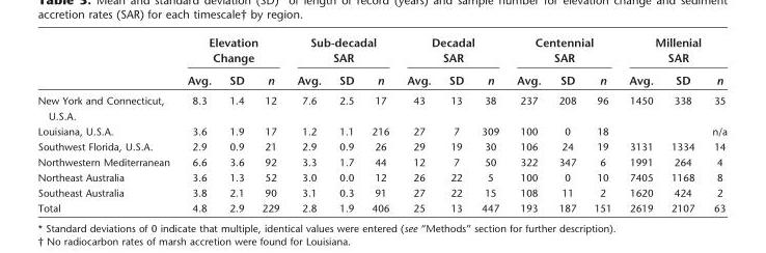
<table><thead><tr><td rowspan="2"></td><td colspan="3">Elevation Change</td><td colspan="3">Sub-decadal SAR</td><td colspan="3">Decadal SAR</td><td colspan="3">Centennial SAR</td><td colspan="3">Millenial SAR</td></tr><tr><td>Avg.</td><td>SD</td><td>n</td><td>Avg.</td><td>SD</td><td>n</td><td>Avg.</td><td>SD</td><td>n</td><td>Avg.</td><td>SD</td><td>n</td><td>Avg.</td><td>SD</td><td>n</td></tr></thead><tbody><tr><td>New York and Connecticut, U.S.A.</td><td>8.3</td><td>1.4</td><td>12</td><td>7.6</td><td>2.5</td><td>17</td><td>43</td><td>13</td><td>38</td><td>237</td><td>208</td><td>96</td><td>1450</td><td>338</td><td>35</td></tr><tr><td>Louisiana, U.S.A.</td><td>3.6</td><td>1.9</td><td>17</td><td>1.2</td><td>1.1</td><td>216</td><td>27</td><td>7</td><td>309</td><td>100</td><td>0</td><td>18</td><td></td><td></td><td>n/a</td></tr><tr><td>Southwest Florida, U.S.A.</td><td>2.9</td><td>0.9</td><td>21</td><td>2.9</td><td>0.9</td><td>26</td><td>29</td><td>19</td><td>30</td><td>106</td><td>24</td><td>19</td><td>3131</td><td>1334</td><td>14</td></tr><tr><td>Northwestern Mediterranean</td><td>6.6</td><td>3.6</td><td>92</td><td>3.3</td><td>1.7</td><td>44</td><td>12</td><td>7</td><td>50</td><td>322</td><td>347</td><td>6</td><td>1991</td><td>264</td><td>4</td></tr><tr><td>Northeast Australia</td><td>3.6</td><td>1.3</td><td>52</td><td>3.0</td><td>0.0</td><td>12</td><td>26</td><td>22</td><td>5</td><td>100</td><td>0</td><td>10</td><td>7405</td><td>1168</td><td>8</td></tr><tr><td>Southeast Australia</td><td>3.8</td><td>2.1</td><td>90</td><td>3.1</td><td>0.3</td><td>91</td><td>27</td><td>22</td><td>15</td><td>108</td><td>11</td><td>2</td><td>1620</td><td>424</td><td>2</td></tr><tr><td>Total</td><td>4.8</td><td>2.9</td><td>229</td><td>2.8</td><td>1.9</td><td>406</td><td>25</td><td>13</td><td>447</td><td>193</td><td>187</td><td>151</td><td>2619</td><td>2107</td><td>63</td></tr></tbody></table>